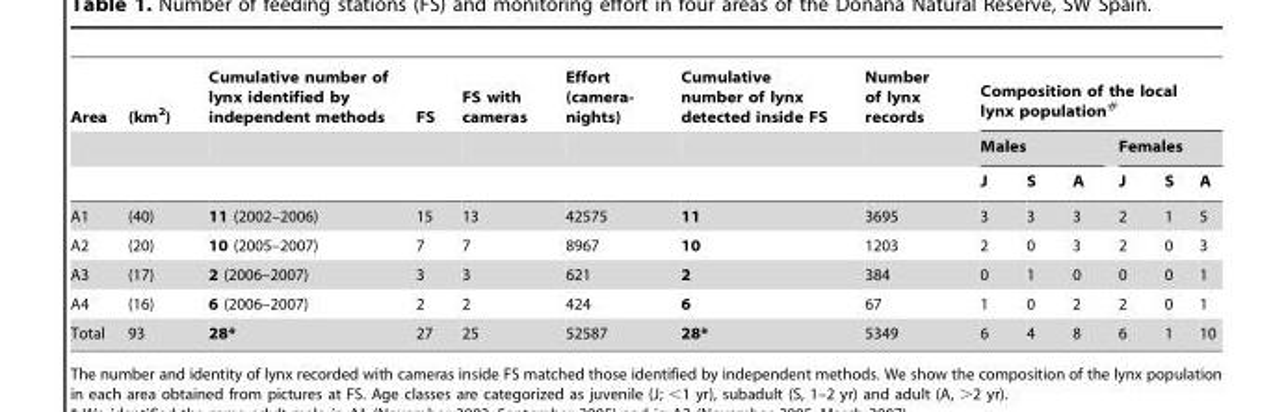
<table><thead><tr><td rowspan="3">Area</td><td rowspan="3">(km<sup>2</sup>)</td><td rowspan="3">Cumulative number of lynx identified by independent methods</td><td rowspan="3">FS</td><td rowspan="3">FS with cameras</td><td rowspan="3">Effort (camera- nights)</td><td rowspan="3">Cumulative number of lynx detected inside FS</td><td rowspan="3">Number of lynx records</td><td colspan="6">Composition of the local lynx population<sup>#</sup></td></tr><tr><td colspan="3">Males</td><td colspan="3">Females</td></tr><tr><td>J</td><td>S</td><td>A</td><td>J</td><td>S</td><td>A</td></tr></thead><tbody><tr><td>A1</td><td>(40)</td><td>11 (2002–2006)</td><td>15</td><td>13</td><td>42575</td><td>11</td><td>3695</td><td>3</td><td>3</td><td>3</td><td>2</td><td>1</td><td>5</td></tr><tr><td>A2</td><td>(20)</td><td>10 (2005–2007)</td><td>7</td><td>7</td><td>8967</td><td>10</td><td>1203</td><td>2</td><td>0</td><td>3</td><td>2</td><td>0</td><td>3</td></tr><tr><td>A3</td><td>(17)</td><td>2 (2006–2007)</td><td>3</td><td>3</td><td>621</td><td>2</td><td>384</td><td>0</td><td>1</td><td>0</td><td>0</td><td>0</td><td>1</td></tr><tr><td>A4</td><td>(16)</td><td>6 (2006–2007)</td><td>2</td><td>2</td><td>424</td><td>6</td><td>67</td><td>1</td><td>0</td><td>2</td><td>2</td><td>0</td><td>1</td></tr><tr><td>Total</td><td>93</td><td>28*</td><td>27</td><td>25</td><td>52587</td><td>28*</td><td>5349</td><td>6</td><td>4</td><td>8</td><td>6</td><td>1</td><td>10</td></tr></tbody></table>